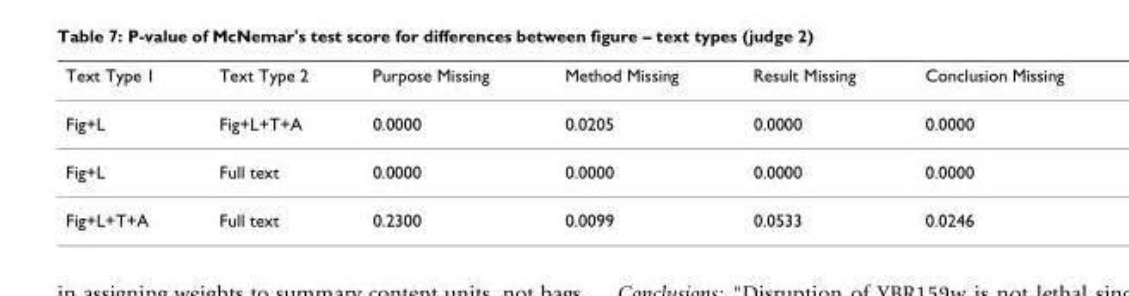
<table><thead><tr><td>Text Type 1</td><td>Text Type 2</td><td>Purpose Missing</td><td>Method Missing</td><td>Result Missing</td><td>Conclusion Missing</td></tr></thead><tbody><tr><td>Fig+L</td><td>Fig+L+T+A</td><td>0.0000</td><td>0.0205</td><td>0.0000</td><td>0.0000</td></tr><tr><td>Fig+L</td><td>Full text</td><td>0.0000</td><td>0.0000</td><td>0.0000</td><td>0.0000</td></tr><tr><td>Fig+L+T+A</td><td>Full text</td><td>0.2300</td><td>0.0099</td><td>0.0533</td><td>0.0246</td></tr></tbody></table>